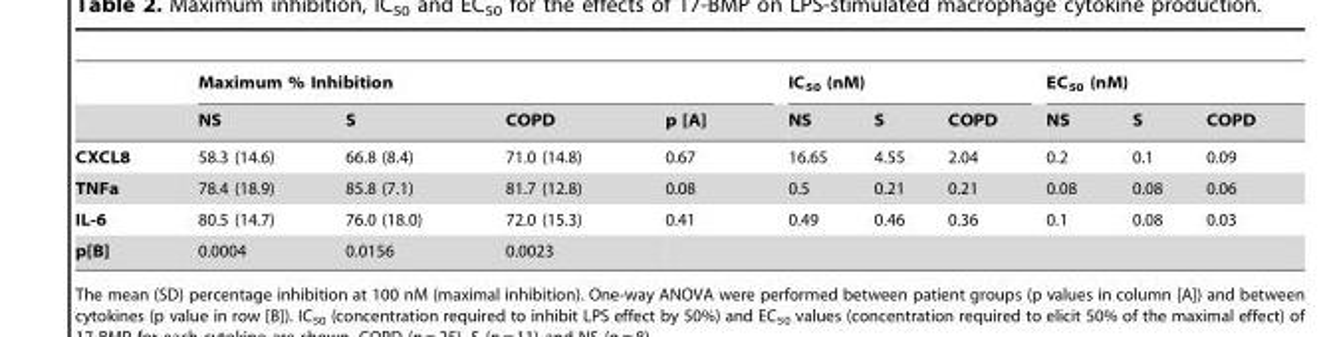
<table><thead><tr><td rowspan="2"></td><td colspan="4">Maximum % Inhibition</td><td colspan="3">IC<sub>50</sub> (nM)</td><td colspan="3">EC<sub>50</sub> (nM)</td></tr><tr><td>NS</td><td>S</td><td>COPD</td><td>p [A]</td><td>NS</td><td>S</td><td>COPD</td><td>NS</td><td>S</td><td>COPD</td></tr></thead><tbody><tr><td>CXCL8</td><td>58.3 (14.6)</td><td>66.8 (8.4)</td><td>71.0 (14.8)</td><td>0.67</td><td>16.65</td><td>4.55</td><td>2.04</td><td>0.2</td><td>0.1</td><td>0.09</td></tr><tr><td>TNFa</td><td>78.4 (18.9)</td><td>85.8 (7.1)</td><td>81.7 (12.8)</td><td>0.08</td><td>0.5</td><td>0.21</td><td>0.21</td><td>0.08</td><td>0.08</td><td>0.06</td></tr><tr><td>IL-6</td><td>80.5 (14.7)</td><td>76.0 (18.0)</td><td>72.0 (15.3)</td><td>0.41</td><td>0.49</td><td>0.46</td><td>0.36</td><td>0.1</td><td>0.08</td><td>0.03</td></tr><tr><td>p[B]</td><td>0.0004</td><td>0.0156</td><td>0.0023</td><td colspan="7"></td></tr></tbody></table>